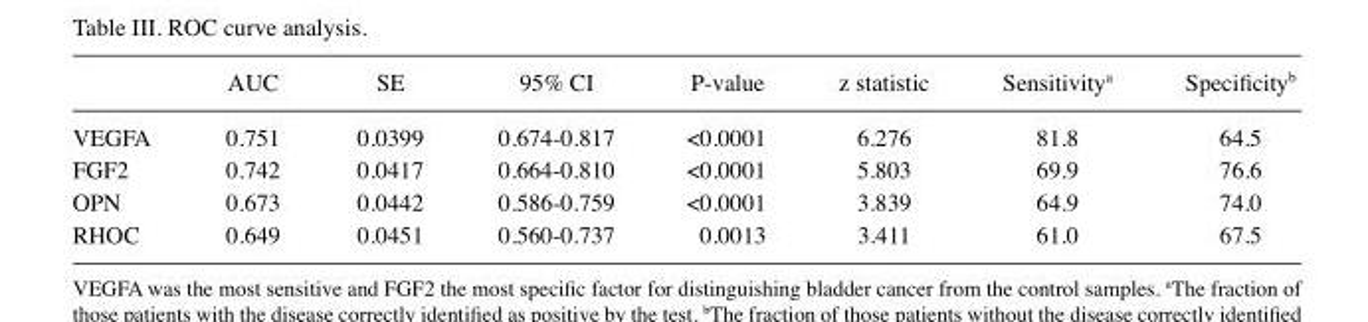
<table><thead><tr><td></td><td>AUC</td><td>SE</td><td>95% CI</td><td>P-value</td><td>z statistic</td><td>Sensitivity<sup>a</sup></td><td>Specificity<sup>b</sup></td></tr></thead><tbody><tr><td>VEGFA</td><td>0.751</td><td>0.0399</td><td>0.674-0.817</td><td>&lt;0.0001</td><td>6.276</td><td>81.8</td><td>64.5</td></tr><tr><td>FGF2</td><td>0.742</td><td>0.0417</td><td>0.664-0.810</td><td>&lt;0.0001</td><td>5.803</td><td>69.9</td><td>76.6</td></tr><tr><td>OPN</td><td>0.673</td><td>0.0442</td><td>0.586-0.759</td><td>&lt;0.0001</td><td>3.839</td><td>64.9</td><td>74.0</td></tr><tr><td>RHOC</td><td>0.649</td><td>0.0451</td><td>0.560-0.737</td><td>0.0013</td><td>3.411</td><td>61.0</td><td>67.5</td></tr></tbody></table>